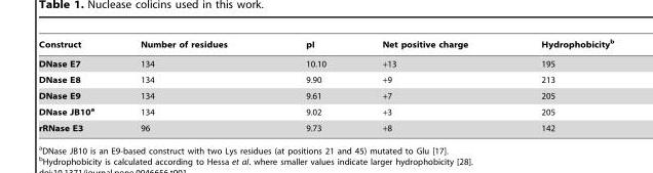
<table><thead><tr><td>Construct</td><td>Number of residues</td><td>pI</td><td>Net positive charge</td><td>Hydrophobicity<sup>b</sup></td></tr></thead><tbody><tr><td>DNase E7</td><td>134</td><td>10.10</td><td>+13</td><td>195</td></tr><tr><td>DNase E8</td><td>134</td><td>9.90</td><td>+9</td><td>213</td></tr><tr><td>DNase E9</td><td>134</td><td>9.61</td><td>+7</td><td>205</td></tr><tr><td>DNase JB10a</td><td>134</td><td>9.02</td><td>+3</td><td>205</td></tr><tr><td>rRNase E3</td><td>96</td><td>9.73</td><td>+8</td><td>142</td></tr></tbody></table>